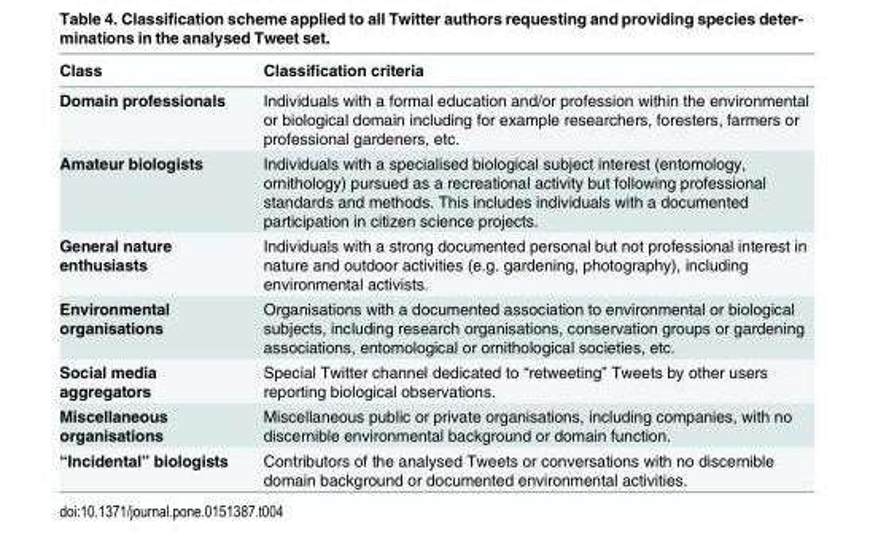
<table><thead><tr><td>Class</td><td>Classification criteria</td></tr></thead><tbody><tr><td>Domain professionals</td><td>Individuals with a formal education and/or profession within the environmental or biological domain including for example researchers, foresters, farmers or professional gardeners, etc.</td></tr><tr><td>Amateur biologists</td><td>Individuals with a specialised biological subject interest (entomology, ornithology) pursued as a recreational activity but following professional standards and methods. This includes individuals with a documented participation in citizen science projects.</td></tr><tr><td>General nature enthusiasts</td><td>Individuals with a strong documented personal but not professional interest in nature and outdoor activities (e.g. gardening, photography), including environmental activists.</td></tr><tr><td>Environmental organisations</td><td>Organisations with a documented association to environmental or biological subjects, including research organisations, conservation groups or gardening associations, entomological or ornithological societies, etc.</td></tr><tr><td>Social media aggregators</td><td>Special Twitter channel dedicated to “retweeting” Tweets by other users reporting biological observations.</td></tr><tr><td>Miscellaneous organisations</td><td>Miscellaneous public or private organisations, including companies, with no discernible environmental background or domain function.</td></tr><tr><td>“Incidental” biologists</td><td>Contributors of the analysed Tweets or conversations with no discernible domain background or documented environmental activities.</td></tr></tbody></table>